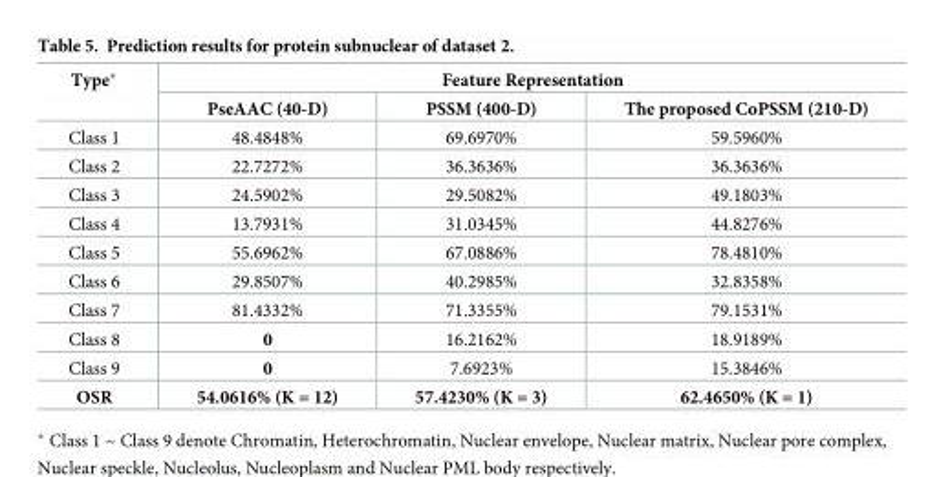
<table><thead><tr><td rowspan="2">Type*</td><td colspan="3">Feature Representation</td></tr><tr><td>PseAAC (40-D)</td><td>PSSM (400-D)</td><td>The proposed CoPSSM (210-D)</td></tr></thead><tbody><tr><td>Class 1</td><td>48.4848%</td><td>69.6970%</td><td>59.5960%</td></tr><tr><td>Class 2</td><td>22.7272%</td><td>36.3636%</td><td>36.3636%</td></tr><tr><td>Class 3</td><td>24.5902%</td><td>29.5082%</td><td>49.1803%</td></tr><tr><td>Class 4</td><td>13.7931%</td><td>31.0345%</td><td>44.8276%</td></tr><tr><td>Class 5</td><td>55.6962%</td><td>67.0886%</td><td>78.4810%</td></tr><tr><td>Class 6</td><td>29.8507%</td><td>40.2985%</td><td>32.8358%</td></tr><tr><td>Class 7</td><td>81.4332%</td><td>71.3355%</td><td>79.1531%</td></tr><tr><td>Class 8</td><td>0</td><td>16.2162%</td><td>18.9189%</td></tr><tr><td>Class 9</td><td>0</td><td>7.6923%</td><td>15.3846%</td></tr><tr><td>OSR</td><td>54.0616% (K = 12)</td><td>57.4230% (K = 3)</td><td>62.4650% (K = 1)</td></tr></tbody></table>